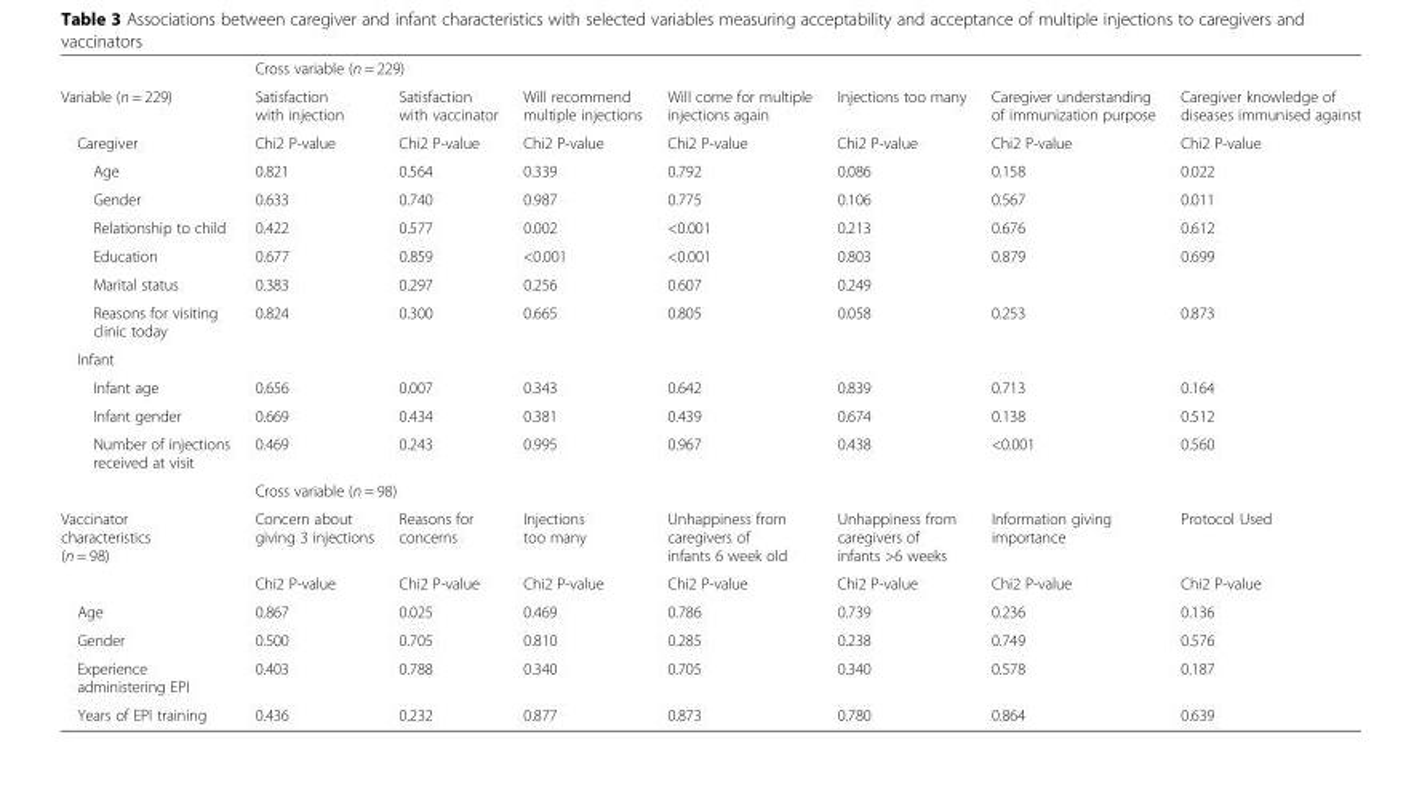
<table><thead><tr><td rowspan="2">Variable (n = 229)</td><td colspan="7">Cross variable (n = 229)</td></tr><tr><td>Satisfaction with injection</td><td>Satisfaction with vaccinator</td><td>Will recommend multiple injections</td><td>Will come for multiple injections again</td><td>Injections too many</td><td>Caregiver understanding of immunization purpose</td><td>Caregiver knowledge of diseases immunised against</td></tr></thead><tbody><tr><td>Caregiver</td><td>Chi2 P-value</td><td>Chi2 P-value</td><td>Chi2 P-value</td><td>Chi2 P-value</td><td>Chi2 P-value</td><td>Chi2 P-value</td><td>Chi2 P-value</td></tr><tr><td>Age</td><td>0.821</td><td>0.564</td><td>0.339</td><td>0.792</td><td>0.086</td><td>0.158</td><td>0.022</td></tr><tr><td>Gender</td><td>0.633</td><td>0.740</td><td>0.987</td><td>0.775</td><td>0.106</td><td>0.567</td><td>0.011</td></tr><tr><td>Relationship to child</td><td>0.422</td><td>0.577</td><td>0.002</td><td>&lt;0.001</td><td>0.213</td><td>0.676</td><td>0.612</td></tr><tr><td>Education</td><td>0.677</td><td>0.859</td><td>&lt;0.001</td><td>&lt;0.001</td><td>0.803</td><td>0.879</td><td>0.699</td></tr><tr><td>Marital status</td><td>0.383</td><td>0.297</td><td>0.256</td><td>0.607</td><td>0.249</td><td></td><td></td></tr><tr><td>Reasons for visiting clinic today</td><td>0.824</td><td>0.300</td><td>0.665</td><td>0.805</td><td>0.058</td><td>0.253</td><td>0.873</td></tr><tr><td colspan="8">Infant</td></tr><tr><td>Infant age</td><td>0.656</td><td>0.007</td><td>0.343</td><td>0.642</td><td>0.839</td><td>0.713</td><td>0.164</td></tr><tr><td>Infant gender</td><td>0.669</td><td>0.434</td><td>0.381</td><td>0.439</td><td>0.674</td><td>0.138</td><td>0.512</td></tr><tr><td rowspan="2">Number of injections received at visit</td><td>0.469</td><td>0.243</td><td>0.995</td><td>0.967</td><td>0.438</td><td>&lt;0.001</td><td>0.560</td></tr><tr><td colspan="7">Cross variable (n = 98)</td></tr><tr><td rowspan="2">Vaccinator characteristics (n = 98)</td><td>Concern about giving 3 injections</td><td>Reasons for concerns</td><td>Injections too many</td><td>Unhappiness from caregivers of infants 6 week old</td><td>Unhappiness from caregivers of infants &gt;6 weeks</td><td>Information giving importance</td><td>Protocol Used</td></tr><tr><td>Chi2 P-value</td><td>Chi2 P-value</td><td>Chi2 P-value</td><td>Chi2 P-value</td><td>Chi2 P-value</td><td>Chi2 P-value</td><td>Chi2 P-value</td></tr><tr><td>Age</td><td>0.867</td><td>0.025</td><td>0.469</td><td>0.786</td><td>0.739</td><td>0.236</td><td>0.136</td></tr><tr><td>Gender</td><td>0.500</td><td>0.705</td><td>0.810</td><td>0.285</td><td>0.238</td><td>0.749</td><td>0.576</td></tr><tr><td>Experience administering EPI</td><td>0.403</td><td>0.788</td><td>0.340</td><td>0.705</td><td>0.340</td><td>0.578</td><td>0.187</td></tr><tr><td>Years of EPI training</td><td>0.436</td><td>0.232</td><td>0.877</td><td>0.873</td><td>0.780</td><td>0.864</td><td>0.639</td></tr></tbody></table>